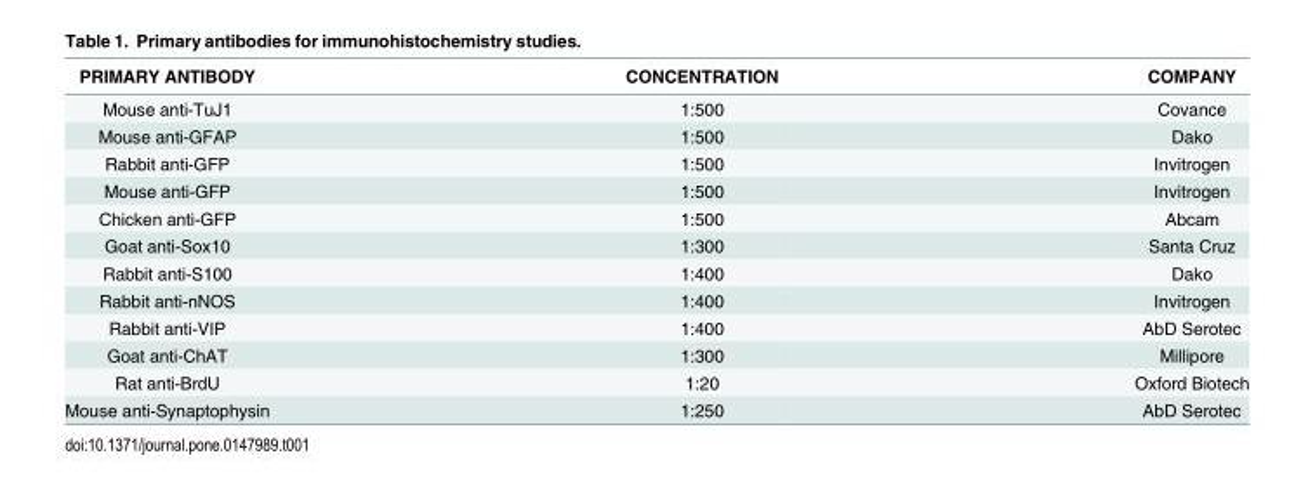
<table><thead><tr><td>PRIMARY ANTIBODY</td><td>CONCENTRATION</td><td>COMPANY</td></tr></thead><tbody><tr><td>Mouse anti-TuJ1</td><td>1:500</td><td>Covance</td></tr><tr><td>Mouse anti-GFAP</td><td>1:500</td><td>Dako</td></tr><tr><td>Rabbit anti-GFP</td><td>1:500</td><td>Invitrogen</td></tr><tr><td>Mouse anti-GFP</td><td>1:500</td><td>Invitrogen</td></tr><tr><td>Chicken anti-GFP</td><td>1:500</td><td>Abcam</td></tr><tr><td>Goat anti-Sox10</td><td>1:300</td><td>Santa Cruz</td></tr><tr><td>Rabbit anti-S100</td><td>1:400</td><td>Dako</td></tr><tr><td>Rabbit anti-nNOS</td><td>1:400</td><td>Invitrogen</td></tr><tr><td>Rabbit anti-VIP</td><td>1:400</td><td>AbD Serotec</td></tr><tr><td>Goat anti-ChAT</td><td>1:300</td><td>Millipore</td></tr><tr><td>Rat anti-BrdU</td><td>1:20</td><td>Oxford Biotech</td></tr><tr><td>Mouse anti-Synaptophysin</td><td>1:250</td><td>AbD Serotec</td></tr></tbody></table>